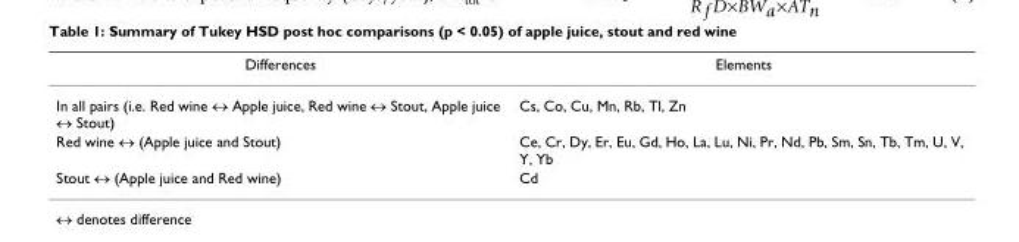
<table><thead><tr><td>Differences</td><td>Elements</td></tr></thead><tbody><tr><td>In all pairs (i.e. Red wine ↔ Apple juice, Red wine ↔ Stout, Apple juice ↔ Stout)</td><td>Cs, Co, Cu, Mn, Rb, Tl, Zn</td></tr><tr><td>Red wine ↔ (Apple juice and Stout)</td><td>Ce, Cr, Dy, Er, Eu, Gd, Ho, La, Lu, Ni, Pr, Nd, Pb, Sm, Sn, Tb, Tm, U, V, Y, Yb</td></tr><tr><td>Stout ↔ (Apple juice and Red wine)</td><td>Cd</td></tr></tbody></table>